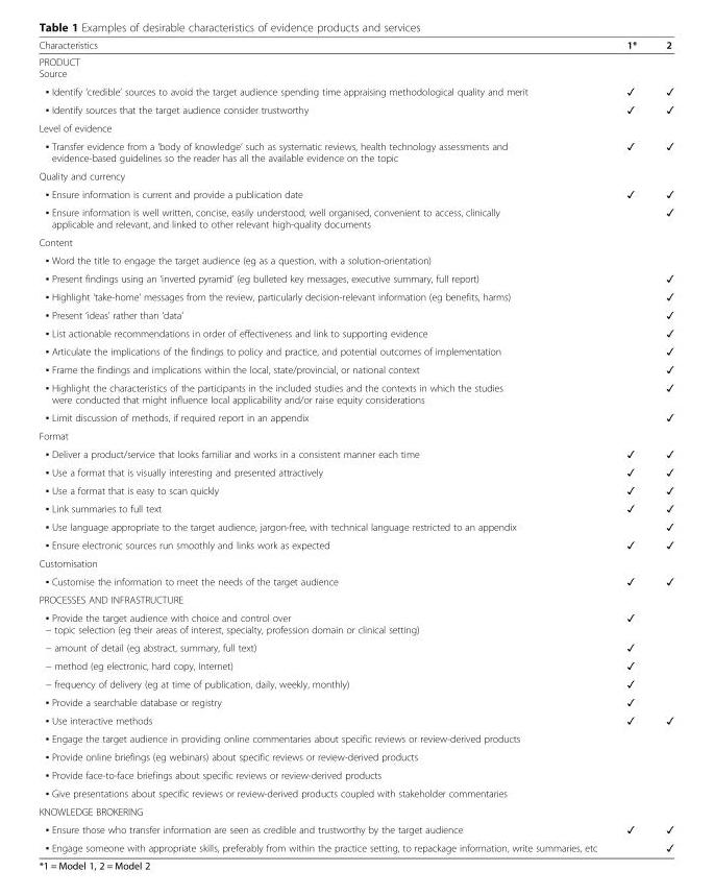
<table><thead><tr><td>Characteristics</td><td>1*</td><td>2</td></tr></thead><tbody><tr><td colspan="3">PRODUCT Source</td></tr><tr><td>▪ Identify ‘credible’ sources to avoid the target audience spending time appraising methodological quality and merit</td><td>✓</td><td>✓</td></tr><tr><td>▪ Identify sources that the target audience consider trustworthy</td><td>✓</td><td>✓</td></tr><tr><td colspan="3">Level of evidence</td></tr><tr><td>▪ Transfer evidence from a ‘body of knowledge’ such as systematic reviews, health technology assessments and evidence-based guidelines so the reader has all the available evidence on the topic</td><td>✓</td><td>✓</td></tr><tr><td colspan="3">Quality and currency</td></tr><tr><td>▪ Ensure information is current and provide a publication date</td><td>✓</td><td>✓</td></tr><tr><td>▪ Ensure information is well written, concise, easily understood, well organised, convenient to access, clinically applicable and relevant, and linked to other relevant high-quality documents</td><td></td><td>✓</td></tr><tr><td colspan="3">Content</td></tr><tr><td colspan="3">▪ Word the title to engage the target audience (eg as a question, with a solution-orientation)</td></tr><tr><td>▪ Present findings using an ‘inverted pyramid’ (eg bulleted key messages, executive summary, full report)</td><td></td><td>✓</td></tr><tr><td>▪ Highlight ‘take-home’ messages from the review, particularly decision-relevant information (eg benefits, harms)</td><td></td><td>✓</td></tr><tr><td>▪ Present ‘ideas’ rather than ‘data’</td><td></td><td>✓</td></tr><tr><td>▪ List actionable recommendations in order of effectiveness and link to supporting evidence</td><td></td><td>✓</td></tr><tr><td>▪ Articulate the implications of the findings to policy and practice, and potential outcomes of implementation</td><td></td><td>✓</td></tr><tr><td>▪ Frame the findings and implications within the local, state/provincial, or national context</td><td></td><td>✓</td></tr><tr><td>▪ Highlight the characteristics of the participants in the included studies and the contexts in which the studies were conducted that might influence local applicability and/or raise equity considerations</td><td></td><td>✓</td></tr><tr><td>▪ Limit discussion of methods, if required report in an appendix</td><td></td><td>✓</td></tr><tr><td colspan="3">Format</td></tr><tr><td>▪ Deliver a product/service that looks familiar and works in a consistent manner each time</td><td>✓</td><td>✓</td></tr><tr><td>▪ Use a format that is visually interesting and presented attractively</td><td>✓</td><td>✓</td></tr><tr><td>▪ Use a format that is easy to scan quickly</td><td>✓</td><td>✓</td></tr><tr><td>▪ Link summaries to full text</td><td>✓</td><td>✓</td></tr><tr><td>▪ Use language appropriate to the target audience, jargon-free, with technical language restricted to an appendix</td><td></td><td>✓</td></tr><tr><td>▪ Ensure electronic sources run smoothly and links work as expected</td><td>✓</td><td>✓</td></tr><tr><td colspan="3">Customisation</td></tr><tr><td>▪ Customise the information to meet the needs of the target audience</td><td>✓</td><td>✓</td></tr><tr><td colspan="3">PROCESSES AND INFRASTRUCTURE</td></tr><tr><td>▪ Provide the target audience with choice and control over − topic selection (eg their areas of interest, specialty, profession domain or clinical setting)</td><td>✓</td><td></td></tr><tr><td>− amount of detail (eg abstract, summary, full text)</td><td>✓</td><td></td></tr><tr><td>− method (eg electronic, hard copy, Internet)</td><td>✓</td><td></td></tr><tr><td>− frequency of delivery (eg at time of publication, daily, weekly, monthly)</td><td>✓</td><td></td></tr><tr><td>▪ Provide a searchable database or registry</td><td>✓</td><td></td></tr><tr><td>▪ Use interactive methods</td><td>✓</td><td>✓</td></tr><tr><td colspan="3">▪ Engage the target audience in providing online commentaries about specific reviews or review-derived products</td></tr><tr><td colspan="3">▪ Provide online briefings (eg webinars) about specific reviews or review-derived products</td></tr><tr><td colspan="3">▪ Provide face-to-face briefings about specific reviews or review-derived products</td></tr><tr><td colspan="3">▪ Give presentations about specific reviews or review-derived products coupled with stakeholder commentaries</td></tr><tr><td colspan="3">KNOWLEDGE BROKERING</td></tr><tr><td>▪ Ensure those who transfer information are seen as credible and trustworthy by the target audience</td><td>✓</td><td>✓</td></tr><tr><td>▪ Engage someone with appropriate skills, preferably from within the practice setting, to repackage information, write summaries, etc</td><td></td><td>✓</td></tr></tbody></table>